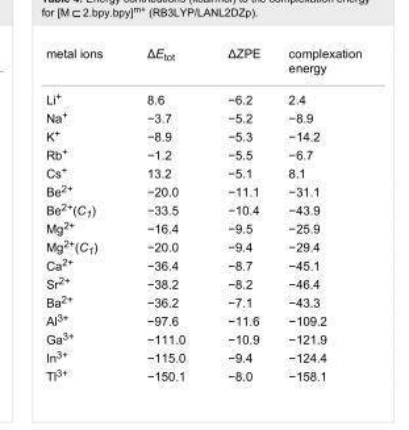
<table><tbody><tr><td>metal ions</td><td>ΔE<sub>tot</sub></td><td>ΔZPE</td><td>complexation energy</td></tr><tr><td>Li<sup>+</sup></td><td>8.6</td><td>−6.2</td><td>2.4</td></tr><tr><td>Na<sup>+</sup></td><td>−3.7</td><td>−5.2</td><td>−8.9</td></tr><tr><td>K<sup>+</sup></td><td>−8.9</td><td>−5.3</td><td>−14.2</td></tr><tr><td>Rb<sup>+</sup></td><td>−1.2</td><td>−5.5</td><td>−6.7</td></tr><tr><td>Cs<sup>+</sup></td><td>13.2</td><td>−5.1</td><td>8.1</td></tr><tr><td>Be<sup>2+</sup></td><td>−20.0</td><td>−11.1</td><td>−31.1</td></tr><tr><td>Be<sup>2+</sup>(C<sub>1</sub>)</td><td>−33.5</td><td>−10.4</td><td>−43.9</td></tr><tr><td>Mg<sup>2+</sup></td><td>−16.4</td><td>−9.5</td><td>−25.9</td></tr><tr><td>Mg<sup>2+</sup>(C<sub>1</sub>)</td><td>−20.0</td><td>−9.4</td><td>−29.4</td></tr><tr><td>Ca<sup>2+</sup></td><td>−36.4</td><td>−8.7</td><td>−45.1</td></tr><tr><td>Sr<sup>2+</sup></td><td>−38.2</td><td>−8.2</td><td>−46.4</td></tr><tr><td>Ba<sup>2+</sup></td><td>−36.2</td><td>−7.1</td><td>−43.3</td></tr><tr><td>Al<sup>3+</sup></td><td>−97.6</td><td>−11.6</td><td>−109.2</td></tr><tr><td>Ga<sup>3+</sup></td><td>−111.0</td><td>−10.9</td><td>−121.9</td></tr><tr><td>In<sup>3+</sup></td><td>−115.0</td><td>−9.4</td><td>−124.4</td></tr><tr><td>Tl<sup>3+</sup></td><td>−150.1</td><td>−8.0</td><td>−158.1</td></tr></tbody></table>